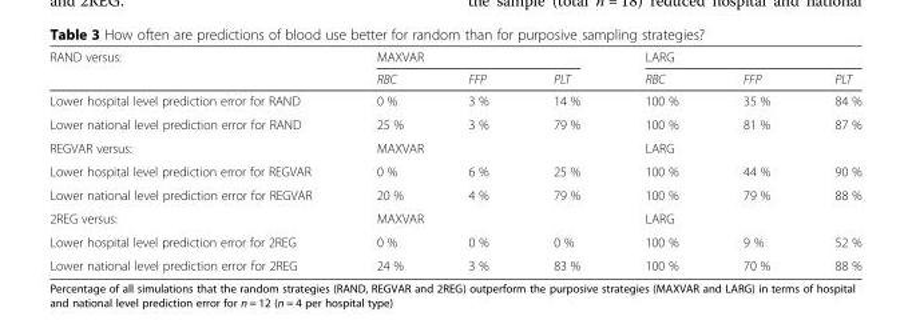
<table><thead><tr><td rowspan="2">RAND versus:</td><td colspan="3">MAXVAR</td><td colspan="3">LARG</td></tr><tr><td>RBC</td><td>FFP</td><td>PLT</td><td>RBC</td><td>FFP</td><td>PLT</td></tr></thead><tbody><tr><td>Lower hospital level prediction error for RAND</td><td>0 %</td><td>3 %</td><td>14 %</td><td>100 %</td><td>35 %</td><td>84 %</td></tr><tr><td>Lower national level prediction error for RAND</td><td>25 %</td><td>3 %</td><td>79 %</td><td>100 %</td><td>81 %</td><td>87 %</td></tr><tr><td>REGVAR versus:</td><td colspan="3">MAXVAR</td><td colspan="3">LARG</td></tr><tr><td>Lower hospital level prediction error for REGVAR</td><td>0 %</td><td>6 %</td><td>25 %</td><td>100 %</td><td>44 %</td><td>90 %</td></tr><tr><td>Lower national level prediction error for REGVAR</td><td>20 %</td><td>4 %</td><td>79 %</td><td>100 %</td><td>79 %</td><td>88 %</td></tr><tr><td>2REG versus:</td><td colspan="3">MAXVAR</td><td colspan="3">LARG</td></tr><tr><td>Lower hospital level prediction error for 2REG</td><td>0 %</td><td>0 %</td><td>0 %</td><td>100 %</td><td>9 %</td><td>52 %</td></tr><tr><td>Lower national level prediction error for 2REG</td><td>24 %</td><td>3 %</td><td>83 %</td><td>100 %</td><td>70 %</td><td>88 %</td></tr></tbody></table>